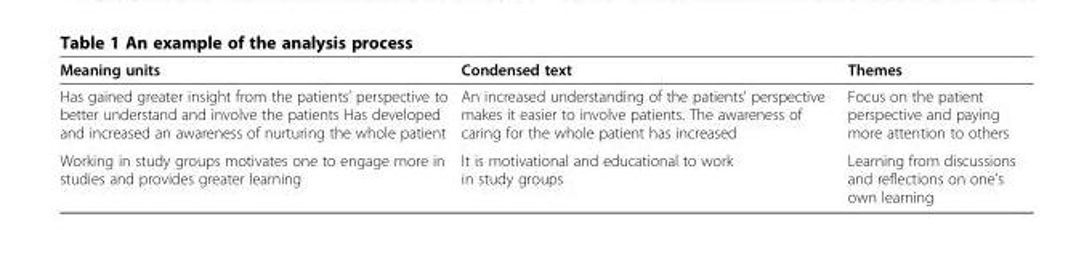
<table><thead><tr><td>Meaning units</td><td>Condensed text</td><td>Themes</td></tr></thead><tbody><tr><td>Has gained greater insight from the patients’ perspective to better understand and involve the patients Has developed and increased an awareness of nurturing the whole patient</td><td>An increased understanding of the patients’ perspective makes it easier to involve patients. The awareness of caring for the whole patient has increased</td><td>Focus on the patient perspective and paying more attention to others</td></tr><tr><td>Working in study groups motivates one to engage more in studies and provides greater learning</td><td>It is motivational and educational to work in study groups</td><td>Learning from discussions and reflections on one’s own learning</td></tr></tbody></table>